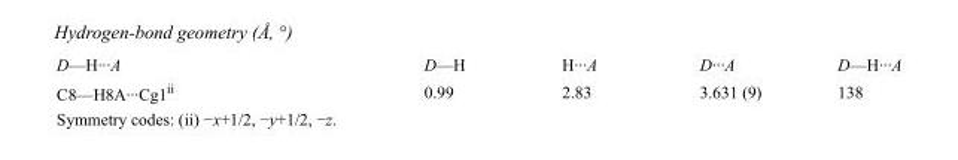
<table><tbody><tr><td>D—H···A</td><td>D—H</td><td>H···A</td><td>D···A</td><td>D—H···A</td></tr><tr><td>C8—H8A···Cg1<sup>ii</sup></td><td>0.99</td><td>2.83</td><td>3.631 (9)</td><td>138</td></tr></tbody></table>